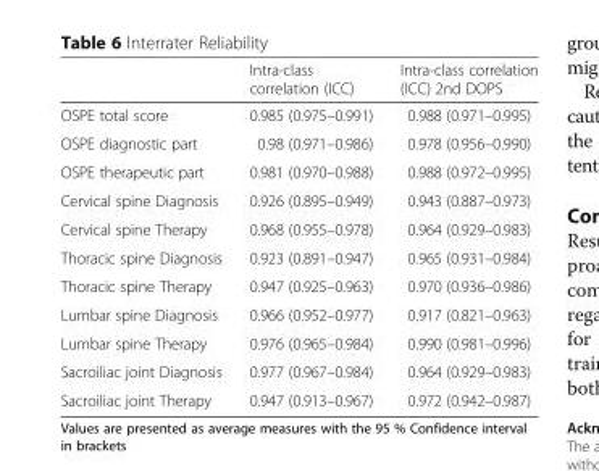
<table><thead><tr><td></td><td>Intra-class correlation (ICC)</td><td>Intra-class correlation (ICC) 2nd DOPS</td></tr></thead><tbody><tr><td>OSPE total score</td><td>0.985 (0.975–0.991)</td><td>0.988 (0.971–0.995)</td></tr><tr><td>OSPE diagnostic part</td><td>0.98 (0.971–0.986)</td><td>0.978 (0.956–0.990)</td></tr><tr><td>OSPE therapeutic part</td><td>0.981 (0.970–0.988)</td><td>0.988 (0.972–0.995)</td></tr><tr><td>Cervical spine Diagnosis</td><td>0.926 (0.895–0.949)</td><td>0.943 (0.887–0.973)</td></tr><tr><td>Cervical spine Therapy</td><td>0.968 (0.955–0.978)</td><td>0.964 (0.929–0.983)</td></tr><tr><td>Thoracic spine Diagnosis</td><td>0.923 (0.891–0.947)</td><td>0.965 (0.931–0.984)</td></tr><tr><td>Thoracic spine Therapy</td><td>0.947 (0.925–0.963)</td><td>0.970 (0.936–0.986)</td></tr><tr><td>Lumbar spine Diagnosis</td><td>0.966 (0.952–0.977)</td><td>0.917 (0.821–0.963)</td></tr><tr><td>Lumbar spine Therapy</td><td>0.976 (0.965–0.984)</td><td>0.990 (0.981–0.996)</td></tr><tr><td>Sacroiliac joint Diagnosis</td><td>0.977 (0.967–0.984)</td><td>0.964 (0.929–0.983)</td></tr><tr><td>Sacroiliac joint Therapy</td><td>0.947 (0.913–0.967)</td><td>0.972 (0.942–0.987)</td></tr></tbody></table>